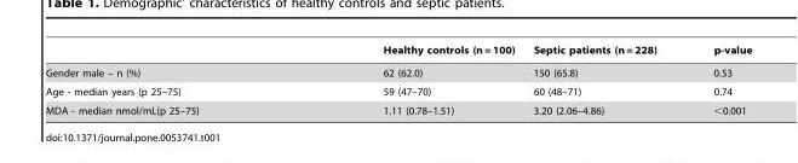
<table><thead><tr><td></td><td>Healthy controls (n = 100)</td><td>Septic patients (n = 228)</td><td>p-value</td></tr></thead><tbody><tr><td>Gender male – n (%)</td><td>62 (62.0)</td><td>150 (65.8)</td><td>0.53</td></tr><tr><td>Age - median years (p 25–75)</td><td>59 (47–70)</td><td>60 (48–71)</td><td>0.74</td></tr><tr><td>MDA - median nmol/mL(p 25–75)</td><td>1.11 (0.78–1.51)</td><td>3.20 (2.06–4.86)</td><td>&lt;0.001</td></tr></tbody></table>